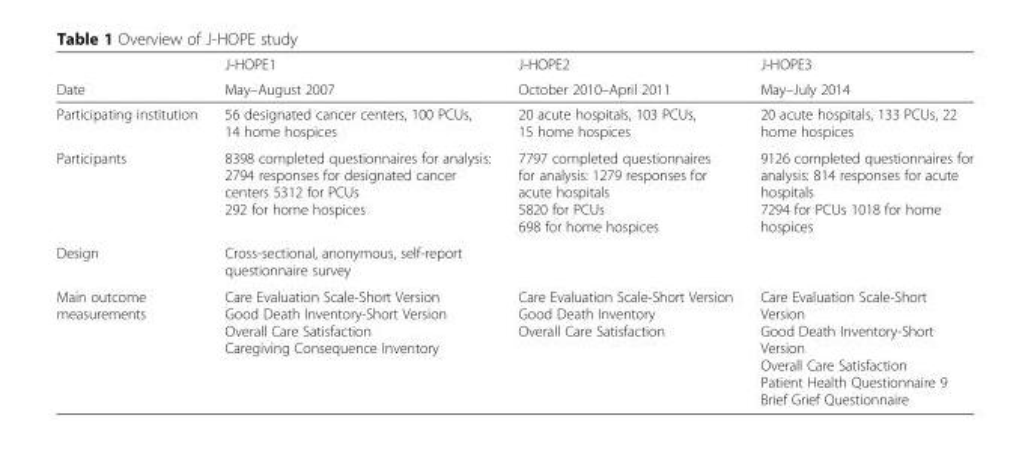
<table><thead><tr><td rowspan="2">Date</td><td rowspan="2">J-HOPE1 May–August 2007</td><td rowspan="2">J-HOPE2 October 2010–April 2011</td><td rowspan="2">J-HOPE3 May–July 2014</td></tr><tr></tr></thead><tbody><tr><td>Participating institution</td><td>56 designated cancer centers, 100 PCUs, 14 home hospices</td><td>20 acute hospitals, 103 PCUs, 15 home hospices</td><td>20 acute hospitals, 133 PCUs, 22 home hospices</td></tr><tr><td>Participants</td><td>8398 completed questionnaires for analysis: 2794 responses for designated cancer centers 5312 for PCUs 292 for home hospices</td><td>7797 completed questionnaires for analysis: 1279 responses for acute hospitals 5820 for PCUs 698 for home hospices</td><td>9126 completed questionnaires for analysis: 814 responses for acute hospitals 7294 for PCUs 1018 for home hospices</td></tr><tr><td>Design</td><td colspan="3">Cross-sectional, anonymous, self-report questionnaire survey</td></tr><tr><td>Main outcome measurements</td><td>Care Evaluation Scale-Short Version Good Death Inventory-Short Version Overall Care Satisfaction Caregiving Consequence Inventory</td><td>Care Evaluation Scale-Short Version Good Death Inventory Overall Care Satisfaction</td><td>Care Evaluation Scale-Short Version Good Death Inventory-Short Version Overall Care Satisfaction Patient Health Questionnaire 9 Brief Grief Questionnaire</td></tr></tbody></table>